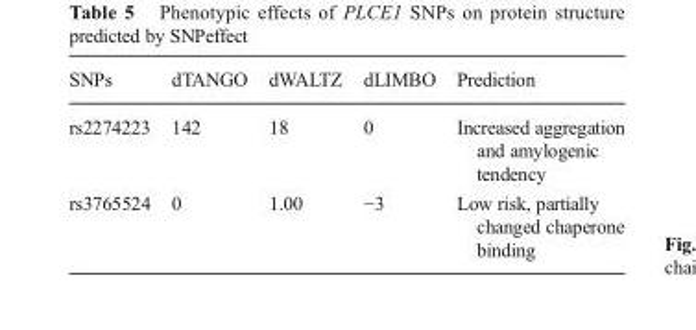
<table><thead><tr><td>SNPs</td><td>dTANGO</td><td>dWALTZ</td><td>dLIMBO</td><td>Prediction</td></tr></thead><tbody><tr><td>rs2274223</td><td>142</td><td>18</td><td>0</td><td>Increased aggregation and amylogenic tendency</td></tr><tr><td>rs3765524</td><td>0</td><td>1.00</td><td>−3</td><td>Low risk, partially changed chaperone binding</td></tr></tbody></table>